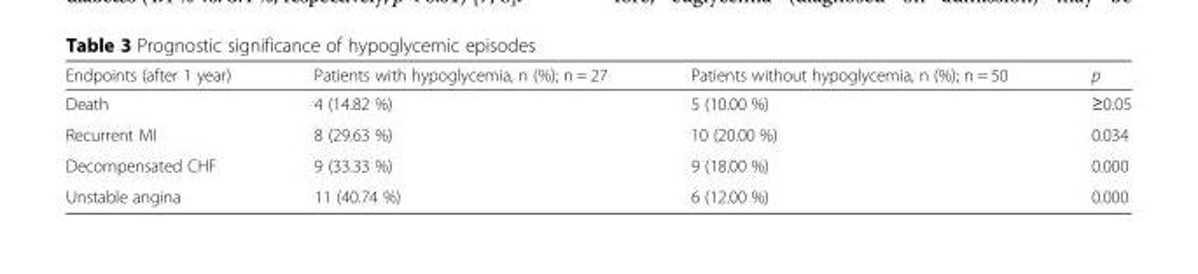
<table><thead><tr><td>Endpoints (after 1 year)</td><td>Patients with hypoglycemia, n (%); n = 27</td><td>Patients without hypoglycemia, n (%); n = 50</td><td>p</td></tr></thead><tbody><tr><td>Death</td><td>4 (14.82 %)</td><td>5 (10.00 %)</td><td>≥0.05</td></tr><tr><td>Recurrent MI</td><td>8 (29.63 %)</td><td>10 (20.00 %)</td><td>0.034</td></tr><tr><td>Decompensated CHF</td><td>9 (33.33 %)</td><td>9 (18.00 %)</td><td>0.000</td></tr><tr><td>Unstable angina</td><td>11 (40.74 %)</td><td>6 (12.00 %)</td><td>0.000</td></tr></tbody></table>